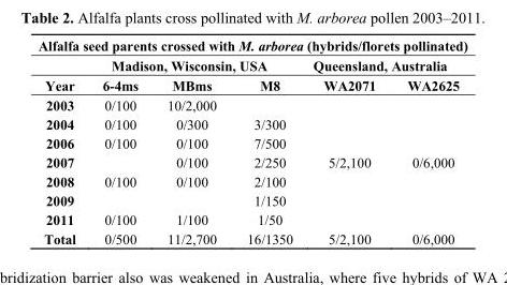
<table><thead><tr><td colspan="6">Alfalfa seed parents crossed with M. arborea (hybrids/florets pollinated)</td></tr><tr><td rowspan="2">Year</td><td colspan="3">Madison, Wisconsin, USA</td><td colspan="2">Queensland, Australia</td></tr><tr><td>6-4ms</td><td>MBms</td><td>M8</td><td>WA2071</td><td>WA2625</td></tr></thead><tbody><tr><td>2003</td><td>0/100</td><td>10/2,000</td><td></td><td></td><td></td></tr><tr><td>2004</td><td>0/100</td><td>0/300</td><td>3/300</td><td></td><td></td></tr><tr><td>2006</td><td>0/100</td><td>0/100</td><td>7/500</td><td></td><td></td></tr><tr><td>2007</td><td></td><td>0/100</td><td>2/250</td><td>5/2,100</td><td>0/6,000</td></tr><tr><td>2008</td><td>0/100</td><td>0/100</td><td>2/100</td><td></td><td></td></tr><tr><td>2009</td><td></td><td></td><td>1/150</td><td></td><td></td></tr><tr><td>2011</td><td>0/100</td><td>1/100</td><td>1/50</td><td></td><td></td></tr><tr><td>Total</td><td>0/500</td><td>11/2,700</td><td>16/1350</td><td>5/2,100</td><td>0/6,000</td></tr></tbody></table>